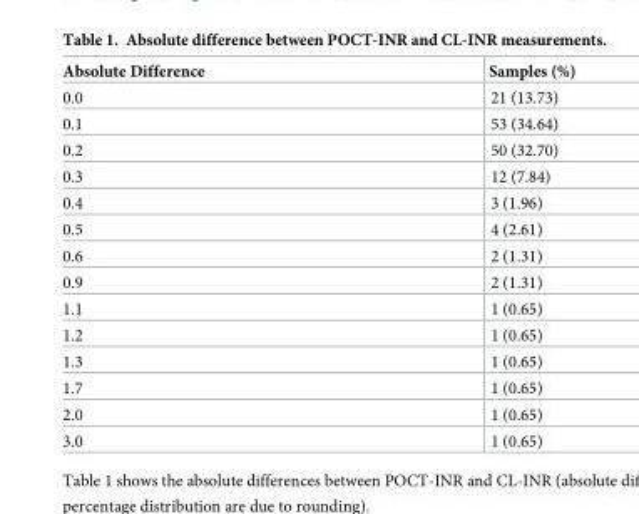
<table><thead><tr><td>Absolute Difference</td><td>Samples (%)</td></tr></thead><tbody><tr><td>0.0</td><td>21 (13.73)</td></tr><tr><td>0.1</td><td>53 (34.64)</td></tr><tr><td>0.2</td><td>50 (32.70)</td></tr><tr><td>0.3</td><td>12 (7.84)</td></tr><tr><td>0.4</td><td>3 (1.96)</td></tr><tr><td>0.5</td><td>4 (2.61)</td></tr><tr><td>0.6</td><td>2 (1.31)</td></tr><tr><td>0.9</td><td>2 (1.31)</td></tr><tr><td>1.1</td><td>1 (0.65)</td></tr><tr><td>1.2</td><td>1 (0.65)</td></tr><tr><td>1.3</td><td>1 (0.65)</td></tr><tr><td>1.7</td><td>1 (0.65)</td></tr><tr><td>2.0</td><td>1 (0.65)</td></tr><tr><td>3.0</td><td>1 (0.65)</td></tr></tbody></table>